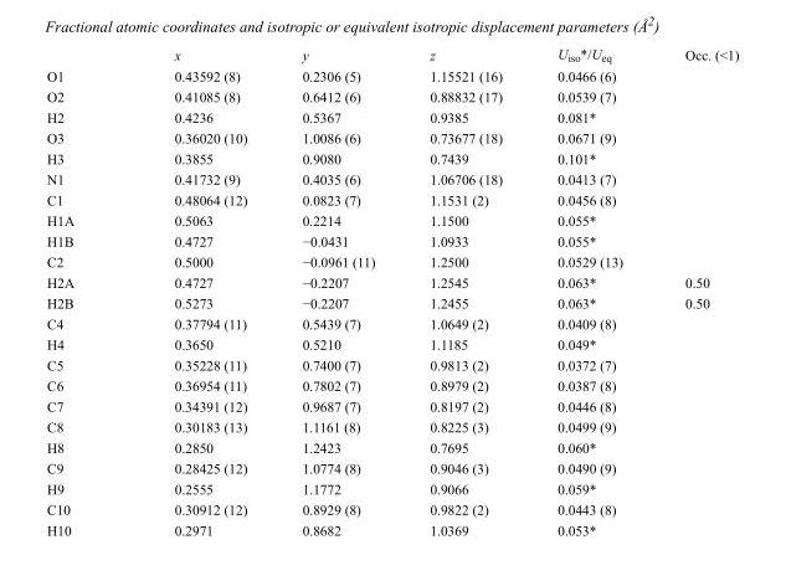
<table><thead><tr><td></td><td>x</td><td>y</td><td>z</td><td>U<sub>iso</sub>*/U<sub>eq</sub></td><td>Occ. (&lt;1)</td></tr></thead><tbody><tr><td>O1</td><td>0.43592 (8)</td><td>0.2306 (5)</td><td>1.15521 (16)</td><td>0.0466 (6)</td><td></td></tr><tr><td>O2</td><td>0.41085 (8)</td><td>0.6412 (6)</td><td>0.88832 (17)</td><td>0.0539 (7)</td><td></td></tr><tr><td>H2</td><td>0.4236</td><td>0.5367</td><td>0.9385</td><td>0.081*</td><td></td></tr><tr><td>O3</td><td>0.36020 (10)</td><td>1.0086 (6)</td><td>0.73677 (18)</td><td>0.0671 (9)</td><td></td></tr><tr><td>H3</td><td>0.3855</td><td>0.9080</td><td>0.7439</td><td>0.101*</td><td></td></tr><tr><td>N1</td><td>0.41732 (9)</td><td>0.4035 (6)</td><td>1.06706 (18)</td><td>0.0413 (7)</td><td></td></tr><tr><td>C1</td><td>0.48064 (12)</td><td>0.0823 (7)</td><td>1.1531 (2)</td><td>0.0456 (8)</td><td></td></tr><tr><td>H1A</td><td>0.5063</td><td>0.2214</td><td>1.1500</td><td>0.055*</td><td></td></tr><tr><td>H1B</td><td>0.4727</td><td>−0.0431</td><td>1.0933</td><td>0.055*</td><td></td></tr><tr><td>C2</td><td>0.5000</td><td>−0.0961 (11)</td><td>1.2500</td><td>0.0529 (13)</td><td></td></tr><tr><td>H2A</td><td>0.4727</td><td>−0.2207</td><td>1.2545</td><td>0.063*</td><td>0.50</td></tr><tr><td>H2B</td><td>0.5273</td><td>−0.2207</td><td>1.2455</td><td>0.063*</td><td>0.50</td></tr><tr><td>C4</td><td>0.37794 (11)</td><td>0.5439 (7)</td><td>1.0649 (2)</td><td>0.0409 (8)</td><td></td></tr><tr><td>H4</td><td>0.3650</td><td>0.5210</td><td>1.1185</td><td>0.049*</td><td></td></tr><tr><td>C5</td><td>0.35228 (11)</td><td>0.7400 (7)</td><td>0.9813 (2)</td><td>0.0372 (7)</td><td></td></tr><tr><td>C6</td><td>0.36954 (11)</td><td>0.7802 (7)</td><td>0.8979 (2)</td><td>0.0387 (8)</td><td></td></tr><tr><td>C7</td><td>0.34391 (12)</td><td>0.9687 (7)</td><td>0.8197 (2)</td><td>0.0446 (8)</td><td></td></tr><tr><td>C8</td><td>0.30183 (13)</td><td>1.1161 (8)</td><td>0.8225 (3)</td><td>0.0499 (9)</td><td></td></tr><tr><td>H8</td><td>0.2850</td><td>1.2423</td><td>0.7695</td><td>0.060*</td><td></td></tr><tr><td>C9</td><td>0.28425 (12)</td><td>1.0774 (8)</td><td>0.9046 (3)</td><td>0.0490 (9)</td><td></td></tr><tr><td>H9</td><td>0.2555</td><td>1.1772</td><td>0.9066</td><td>0.059*</td><td></td></tr><tr><td>C10</td><td>0.30912 (12)</td><td>0.8929 (8)</td><td>0.9822 (2)</td><td>0.0443 (8)</td><td></td></tr><tr><td>H10</td><td>0.2971</td><td>0.8682</td><td>1.0369</td><td>0.053*</td><td></td></tr></tbody></table>